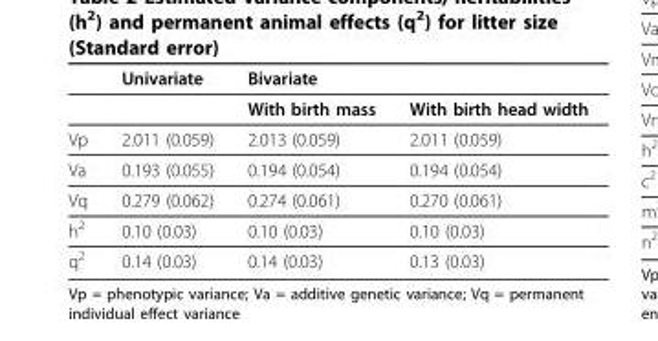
<table><thead><tr><td rowspan="2"></td><td rowspan="2">Univariate</td><td colspan="2">Bivariate</td></tr><tr><td>With birth mass</td><td>With birth head width</td></tr></thead><tbody><tr><td>Vp</td><td>2.011 (0.059)</td><td>2.013 (0.059)</td><td>2.011 (0.059)</td></tr><tr><td>Va</td><td>0.193 (0.055)</td><td>0.194 (0.054)</td><td>0.194 (0.054)</td></tr><tr><td>Vq</td><td>0.279 (0.062)</td><td>0.274 (0.061)</td><td>0.270 (0.061)</td></tr><tr><td>h<sup>2</sup></td><td>0.10 (0.03)</td><td>0.10 (0.03)</td><td>0.10 (0.03)</td></tr><tr><td>q<sup>2</sup></td><td>0.14 (0.03)</td><td>0.14 (0.03)</td><td>0.13 (0.03)</td></tr></tbody></table>